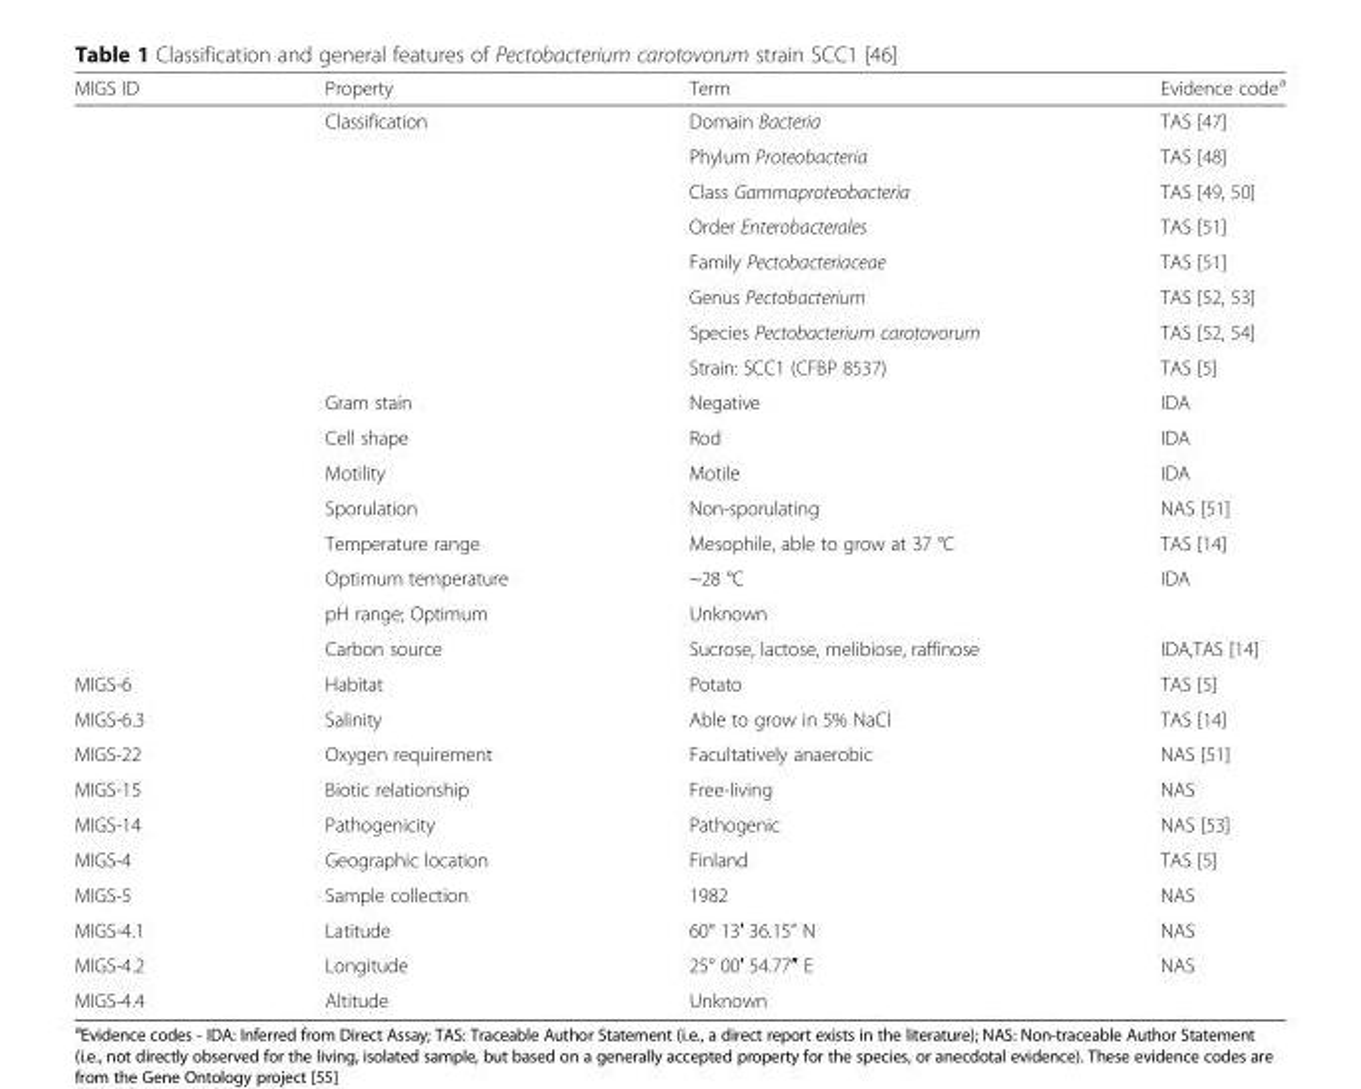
<table><thead><tr><td>MIGS ID</td><td>Property</td><td>Term</td><td>Evidence code<sup>a</sup></td></tr></thead><tbody><tr><td></td><td>Classification</td><td>Domain Bacteria</td><td>TAS [47]</td></tr><tr><td></td><td></td><td>Phylum Proteobacteria</td><td>TAS [48]</td></tr><tr><td></td><td></td><td>Class Gammaproteobacteria</td><td>TAS [49, 50]</td></tr><tr><td></td><td></td><td>Order Enterobacterales</td><td>TAS [51]</td></tr><tr><td></td><td></td><td>Family Pectobacteriaceae</td><td>TAS [51]</td></tr><tr><td></td><td></td><td>Genus Pectobacterium</td><td>TAS [52, 53]</td></tr><tr><td></td><td></td><td>Species Pectobacterium carotovorum</td><td>TAS [52, 54]</td></tr><tr><td></td><td></td><td>Strain: SCC1 (CFBP 8537)</td><td>TAS [5]</td></tr><tr><td></td><td>Gram stain</td><td>Negative</td><td>IDA</td></tr><tr><td></td><td>Cell shape</td><td>Rod</td><td>IDA</td></tr><tr><td></td><td>Motility</td><td>Motile</td><td>IDA</td></tr><tr><td></td><td>Sporulation</td><td>Non-sporulating</td><td>NAS [51]</td></tr><tr><td></td><td>Temperature range</td><td>Mesophile, able to grow at 37 °C</td><td>TAS [14]</td></tr><tr><td></td><td>Optimum temperature</td><td>~28 °C</td><td>IDA</td></tr><tr><td></td><td>pH range; Optimum</td><td>Unknown</td><td></td></tr><tr><td></td><td>Carbon source</td><td>Sucrose, lactose, melibiose, raffinose</td><td>IDA,TAS [14]</td></tr><tr><td>MIGS-6</td><td>Habitat</td><td>Potato</td><td>TAS [5]</td></tr><tr><td>MIGS-6.3</td><td>Salinity</td><td>Able to grow in 5% NaCl</td><td>TAS [14]</td></tr><tr><td>MIGS-22</td><td>Oxygen requirement</td><td>Facultatively anaerobic</td><td>NAS [51]</td></tr><tr><td>MIGS-15</td><td>Biotic relationship</td><td>Free-living</td><td>NAS</td></tr><tr><td>MIGS-14</td><td>Pathogenicity</td><td>Pathogenic</td><td>NAS [53]</td></tr><tr><td>MIGS-4</td><td>Geographic location</td><td>Finland</td><td>TAS [5]</td></tr><tr><td>MIGS-5</td><td>Sample collection</td><td>1982</td><td>NAS</td></tr><tr><td>MIGS-4.1</td><td>Latitude</td><td>60° 13′ 36.15” N</td><td>NAS</td></tr><tr><td>MIGS-4.2</td><td>Longitude</td><td>25° 00′ 54.77″ E</td><td>NAS</td></tr><tr><td>MIGS-4.4</td><td>Altitude</td><td>Unknown</td><td></td></tr></tbody></table>